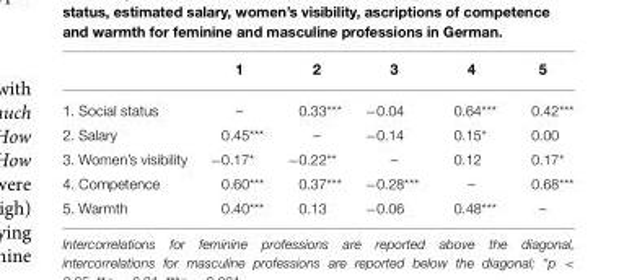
<table><thead><tr><td></td><td>1</td><td>2</td><td>3</td><td>4</td><td>5</td></tr></thead><tbody><tr><td>1. Social status</td><td>–</td><td>0.33***</td><td>−0.04</td><td>0.64***</td><td>0.42***</td></tr><tr><td>2. Salary</td><td>0.45***</td><td>–</td><td>−0.14</td><td>0.15*</td><td>0.00</td></tr><tr><td>3. Women’s visibility</td><td>−0.17*</td><td>−0.22**</td><td>–</td><td>0.12</td><td>0.17*</td></tr><tr><td>4. Competence</td><td>0.60***</td><td>0.37***</td><td>−0.28***</td><td>–</td><td>0.68***</td></tr><tr><td>5. Warmth</td><td>0.40***</td><td>0.13</td><td>−0.06</td><td>0.48***</td><td>–</td></tr></tbody></table>